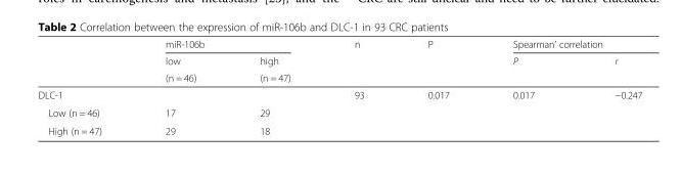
<table><thead><tr><td rowspan="3"></td><td colspan="2">miR-106b</td><td rowspan="3">n</td><td rowspan="3">P</td><td colspan="2">Spearman’ correlation</td></tr><tr><td rowspan="2">low (n = 46)</td><td rowspan="2">high (n = 47)</td><td rowspan="2">P</td><td rowspan="2">r</td></tr><tr></tr></thead><tbody><tr><td>DLC-1</td><td></td><td></td><td>93</td><td>0.017</td><td>0.017</td><td>−0.247</td></tr><tr><td>Low (n = 46)</td><td>17</td><td>29</td><td rowspan="2"></td><td rowspan="2"></td><td rowspan="2"></td><td rowspan="2"></td></tr><tr><td>High (n = 47)</td><td>29</td><td>18</td></tr></tbody></table>